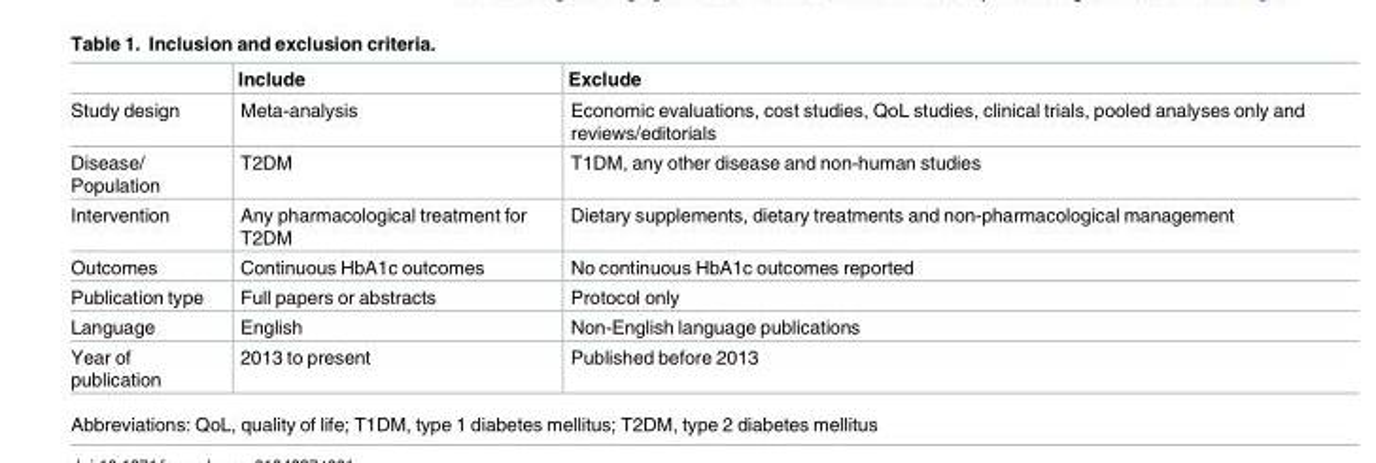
<table><thead><tr><td></td><td>Include</td><td>Exclude</td></tr></thead><tbody><tr><td>Study design</td><td>Meta-analysis</td><td>Economic evaluations, cost studies, QoL studies, clinical trials, pooled analyses only and reviews/editorials</td></tr><tr><td>Disease/ Population</td><td>T2DM</td><td>T1DM, any other disease and non-human studies</td></tr><tr><td>Intervention</td><td>Any pharmacological treatment for T2DM</td><td>Dietary supplements, dietary treatments and non-pharmacological management</td></tr><tr><td>Outcomes</td><td>Continuous HbA1c outcomes</td><td>No continuous HbA1c outcomes reported</td></tr><tr><td>Publication type</td><td>Full papers or abstracts</td><td>Protocol only</td></tr><tr><td>Language</td><td>English</td><td>Non-English language publications</td></tr><tr><td>Year of publication</td><td>2013 to present</td><td>Published before 2013</td></tr></tbody></table>